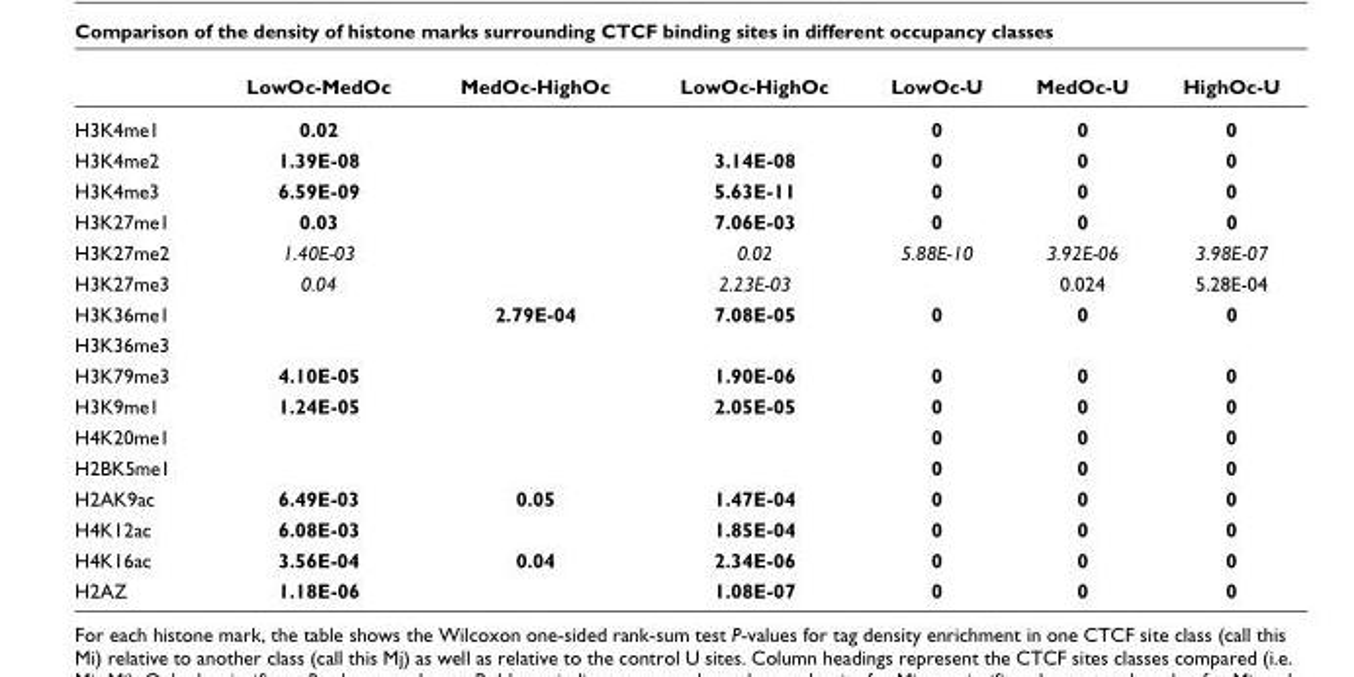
<table><thead><tr><td></td><td>LowOc-MedOc</td><td>MedOc-HighOc</td><td>LowOc-HighOc</td><td>LowOc-U</td><td>MedOc-U</td><td>HighOc-U</td></tr></thead><tbody><tr><td>H3K4me1</td><td>0.02</td><td></td><td></td><td>0</td><td>0</td><td>0</td></tr><tr><td>H3K4me2</td><td>1.39E-08</td><td></td><td>3.14E-08</td><td>0</td><td>0</td><td>0</td></tr><tr><td>H3K4me3</td><td>6.59E-09</td><td></td><td>5.63E-11</td><td>0</td><td>0</td><td>0</td></tr><tr><td>H3K27me1</td><td>0.03</td><td></td><td>7.06E-03</td><td>0</td><td>0</td><td>0</td></tr><tr><td>H3K27me2</td><td>1.40E-03</td><td></td><td>0.02</td><td>5.88E-10</td><td>3.92E-06</td><td>3.98E-07</td></tr><tr><td>H3K27me3</td><td>0.04</td><td></td><td>2.23E-03</td><td></td><td>0.024</td><td>5.28E-04</td></tr><tr><td>H3K36me1</td><td></td><td>2.79E-04</td><td>7.08E-05</td><td>0</td><td>0</td><td>0</td></tr><tr><td colspan="7">H3K36me3</td></tr><tr><td>H3K79me3</td><td>4.10E-05</td><td></td><td>1.90E-06</td><td>0</td><td>0</td><td>0</td></tr><tr><td>H3K9me1</td><td>1.24E-05</td><td></td><td>2.05E-05</td><td>0</td><td>0</td><td>0</td></tr><tr><td>H4K20me1</td><td></td><td></td><td></td><td>0</td><td>0</td><td>0</td></tr><tr><td>H2BK5me1</td><td></td><td></td><td></td><td>0</td><td>0</td><td>0</td></tr><tr><td>H2AK9ac</td><td>6.49E-03</td><td>0.05</td><td>1.47E-04</td><td>0</td><td>0</td><td>0</td></tr><tr><td>H4K12ac</td><td>6.08E-03</td><td></td><td>1.85E-04</td><td>0</td><td>0</td><td>0</td></tr><tr><td>H4K16ac</td><td>3.56E-04</td><td>0.04</td><td>2.34E-06</td><td>0</td><td>0</td><td>0</td></tr><tr><td>H2AZ</td><td>1.18E-06</td><td></td><td>1.08E-07</td><td>0</td><td>0</td><td>0</td></tr></tbody></table>